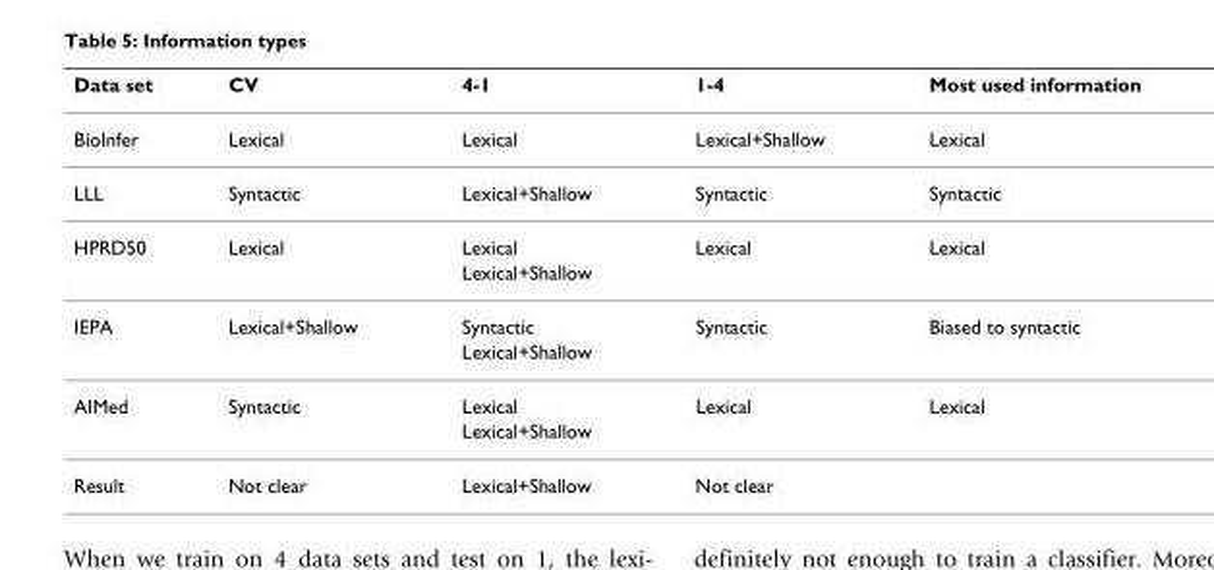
<table><thead><tr><td>Data set</td><td>CV</td><td>4-1</td><td>1-4</td><td>Most used information</td></tr></thead><tbody><tr><td>BioInfer</td><td>Lexical</td><td>Lexical</td><td>Lexical+Shallow</td><td>Lexical</td></tr><tr><td>LLL</td><td>Syntactic</td><td>Lexical+Shallow</td><td>Syntactic</td><td>Syntactic</td></tr><tr><td rowspan="2">HPRD50</td><td>Lexical</td><td>Lexical</td><td>Lexical</td><td>Lexical</td></tr><tr><td></td><td>Lexical+Shallow</td><td></td><td></td></tr><tr><td rowspan="2">IEPA</td><td>Lexical+Shallow</td><td>Syntactic</td><td>Syntactic</td><td>Biased to syntactic</td></tr><tr><td></td><td>Lexical+Shallow</td><td></td><td></td></tr><tr><td rowspan="2">AIMed</td><td>Syntactic</td><td>Lexical</td><td>Lexical</td><td>Lexical</td></tr><tr><td></td><td>Lexical+Shallow</td><td></td><td></td></tr><tr><td>Result</td><td>Not clear</td><td>Lexical+Shallow</td><td>Not clear</td><td></td></tr></tbody></table>